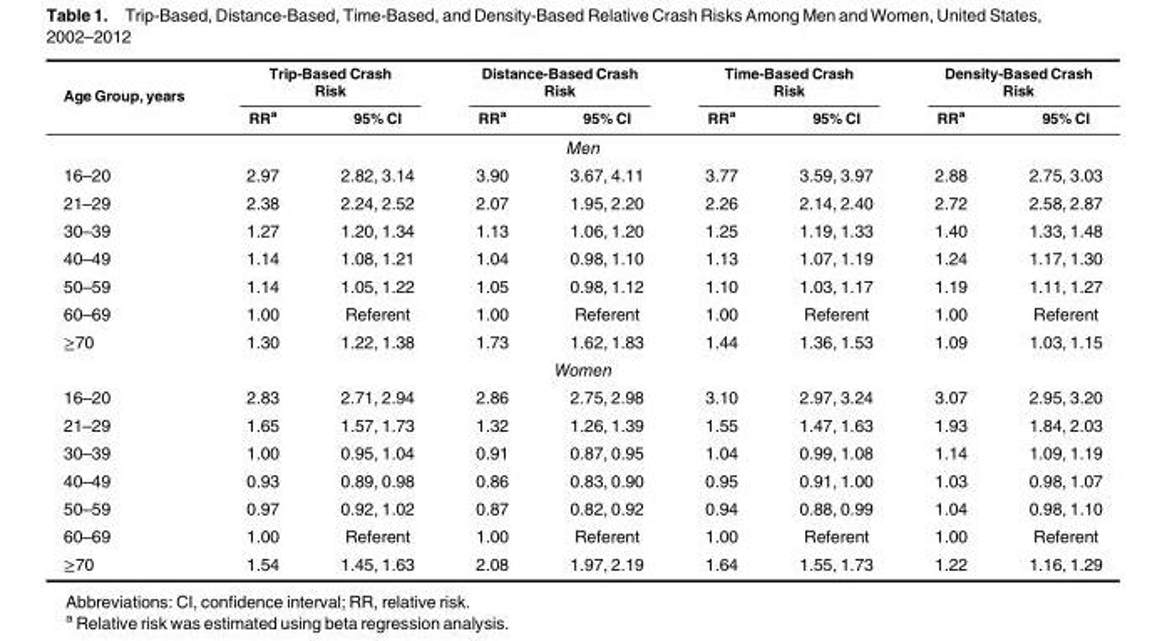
<table><thead><tr><td rowspan="2">Age Group, years</td><td colspan="2">Trip-Based Crash Risk</td><td colspan="2">Distance-Based Crash Risk</td><td colspan="2">Time-Based Crash Risk</td><td colspan="2">Density-Based Crash Risk</td></tr><tr><td>RR<sup>a</sup></td><td>95% CI</td><td>RR<sup>a</sup></td><td>95% CI</td><td>RR<sup>a</sup></td><td>95% CI</td><td>RR<sup>a</sup></td><td>95% CI</td></tr></thead><tbody><tr><td colspan="9">Men</td></tr><tr><td>16–20</td><td>2.97</td><td>2.82, 3.14</td><td>3.90</td><td>3.67, 4.11</td><td>3.77</td><td>3.59, 3.97</td><td>2.88</td><td>2.75, 3.03</td></tr><tr><td>21–29</td><td>2.38</td><td>2.24, 2.52</td><td>2.07</td><td>1.95, 2.20</td><td>2.26</td><td>2.14, 2.40</td><td>2.72</td><td>2.58, 2.87</td></tr><tr><td>30–39</td><td>1.27</td><td>1.20, 1.34</td><td>1.13</td><td>1.06, 1.20</td><td>1.25</td><td>1.19, 1.33</td><td>1.40</td><td>1.33, 1.48</td></tr><tr><td>40–49</td><td>1.14</td><td>1.08, 1.21</td><td>1.04</td><td>0.98, 1.10</td><td>1.13</td><td>1.07, 1.19</td><td>1.24</td><td>1.17, 1.30</td></tr><tr><td>50–59</td><td>1.14</td><td>1.05, 1.22</td><td>1.05</td><td>0.98, 1.12</td><td>1.10</td><td>1.03, 1.17</td><td>1.19</td><td>1.11, 1.27</td></tr><tr><td>60–69</td><td>1.00</td><td>Referent</td><td>1.00</td><td>Referent</td><td>1.00</td><td>Referent</td><td>1.00</td><td>Referent</td></tr><tr><td>≥70</td><td>1.30</td><td>1.22, 1.38</td><td>1.73</td><td>1.62, 1.83</td><td>1.44</td><td>1.36, 1.53</td><td>1.09</td><td>1.03, 1.15</td></tr><tr><td colspan="9">Women</td></tr><tr><td>16–20</td><td>2.83</td><td>2.71, 2.94</td><td>2.86</td><td>2.75, 2.98</td><td>3.10</td><td>2.97, 3.24</td><td>3.07</td><td>2.95, 3.20</td></tr><tr><td>21–29</td><td>1.65</td><td>1.57, 1.73</td><td>1.32</td><td>1.26, 1.39</td><td>1.55</td><td>1.47, 1.63</td><td>1.93</td><td>1.84, 2.03</td></tr><tr><td>30–39</td><td>1.00</td><td>0.95, 1.04</td><td>0.91</td><td>0.87, 0.95</td><td>1.04</td><td>0.99, 1.08</td><td>1.14</td><td>1.09, 1.19</td></tr><tr><td>40–49</td><td>0.93</td><td>0.89, 0.98</td><td>0.86</td><td>0.83, 0.90</td><td>0.95</td><td>0.91, 1.00</td><td>1.03</td><td>0.98, 1.07</td></tr><tr><td>50–59</td><td>0.97</td><td>0.92, 1.02</td><td>0.87</td><td>0.82, 0.92</td><td>0.94</td><td>0.88, 0.99</td><td>1.04</td><td>0.98, 1.10</td></tr><tr><td>60–69</td><td>1.00</td><td>Referent</td><td>1.00</td><td>Referent</td><td>1.00</td><td>Referent</td><td>1.00</td><td>Referent</td></tr><tr><td>≥70</td><td>1.54</td><td>1.45, 1.63</td><td>2.08</td><td>1.97, 2.19</td><td>1.64</td><td>1.55, 1.73</td><td>1.22</td><td>1.16, 1.29</td></tr></tbody></table>